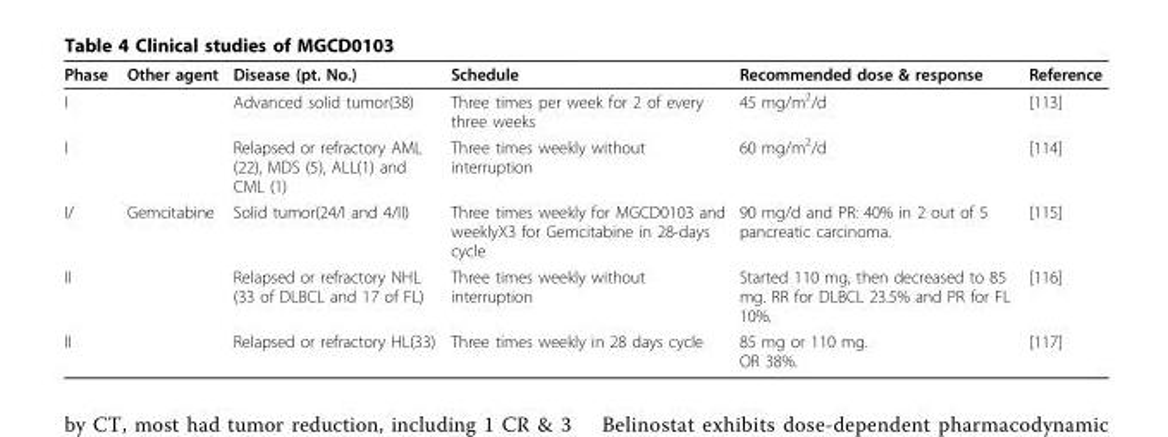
<table><thead><tr><td>Phase</td><td>Other agent</td><td>Disease (pt. No.)</td><td>Schedule</td><td>Recommended dose &amp; response</td><td>Reference</td></tr></thead><tbody><tr><td>I</td><td></td><td>Advanced solid tumor(38)</td><td>Three times per week for 2 of every three weeks</td><td>45 mg/m<sup>2</sup>/d</td><td>[113]</td></tr><tr><td>I</td><td></td><td>Relapsed or refractory AML (22), MDS (5), ALL(1) and CML (1)</td><td>Three times weekly without interruption</td><td>60 mg/m<sup>2</sup>/d</td><td>[114]</td></tr><tr><td>I/</td><td>Gemcitabine</td><td>Solid tumor(24/I and 4/II)</td><td>Three times weekly for MGCD0103 and weeklyX3 for Gemcitabine in 28-days cycle</td><td>90 mg/d and PR: 40% in 2 out of 5 pancreatic carcinoma.</td><td>[115]</td></tr><tr><td>II</td><td></td><td>Relapsed or refractory NHL (33 of DLBCL and 17 of FL)</td><td>Three times weekly without interruption</td><td>Started 110 mg, then decreased to 85 mg. RR for DLBCL 23.5% and PR for FL 10%.</td><td>[116]</td></tr><tr><td>II</td><td></td><td>Relapsed or refractory HL(33)</td><td>Three times weekly in 28 days cycle</td><td>85 mg or 110 mg. OR 38%.</td><td>[117]</td></tr></tbody></table>